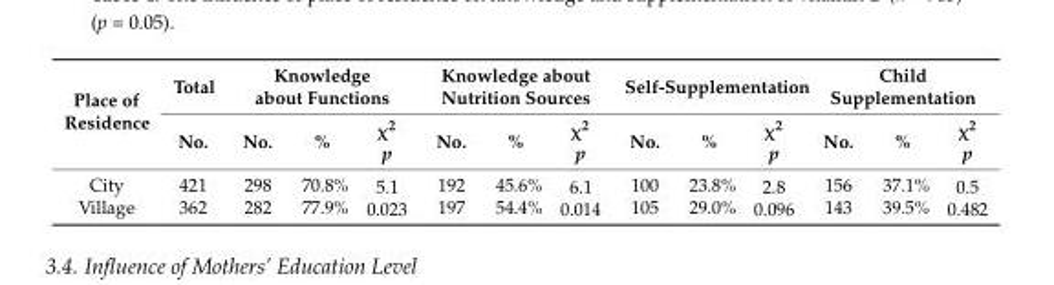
<table><thead><tr><td rowspan="2">Place of Residence</td><td rowspan="2">Total No.</td><td colspan="3">Knowledge about Functions</td><td colspan="3">Knowledge about Nutrition Sources</td><td colspan="3">Self-Supplementation</td><td colspan="3">Child Supplementation</td></tr><tr><td>No.</td><td>%</td><td>χ<sup>2</sup> p</td><td>No.</td><td>%</td><td>χ<sup>2</sup> p</td><td>No.</td><td>%</td><td>χ<sup>2</sup> p</td><td>No.</td><td>%</td><td>χ<sup>2</sup> p</td></tr></thead><tbody><tr><td>City</td><td>421</td><td>298</td><td>70.8%</td><td rowspan="2">5.1 0.023</td><td>192</td><td>45.6%</td><td rowspan="2">6.1 0.014</td><td>100</td><td>23.8%</td><td rowspan="2">2.8 0.096</td><td>156</td><td>37.1%</td><td rowspan="2">0.5 0.482</td></tr><tr><td>Village</td><td>362</td><td>282</td><td>77.9%</td><td>197</td><td>54.4%</td><td>105</td><td>29.0%</td><td>143</td><td>39.5%</td></tr></tbody></table>